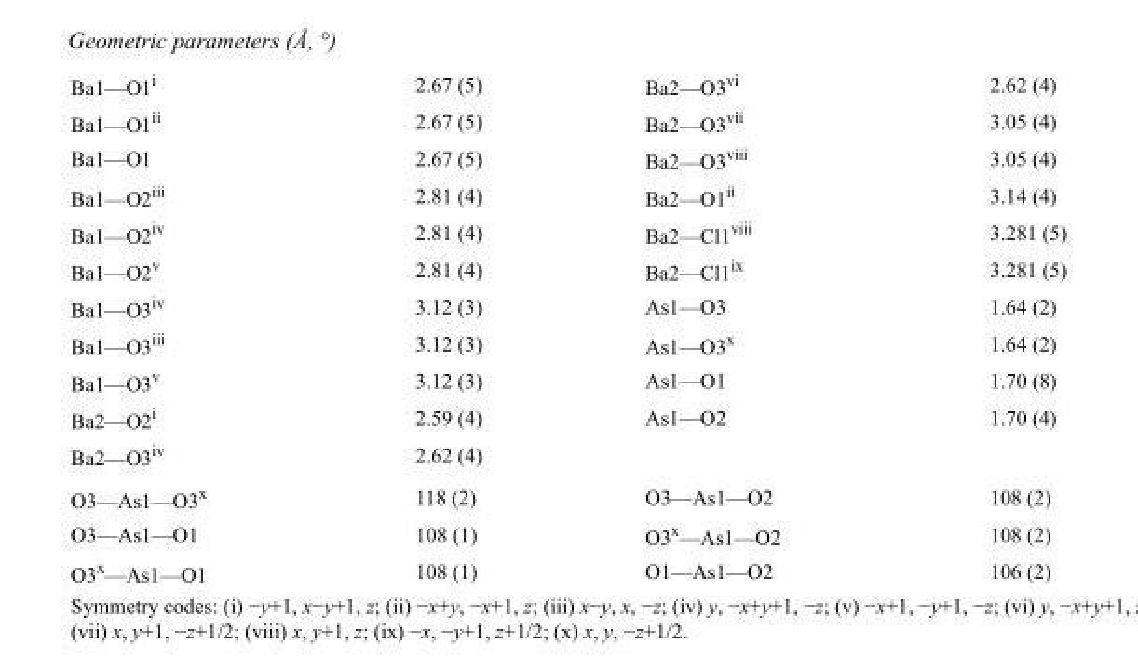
<table><tbody><tr><td>Ba1—O1<sup>i</sup></td><td>2.67 (5)</td><td>Ba2—O3<sup>vi</sup></td><td>2.62 (4)</td></tr><tr><td>Ba1—O1<sup>ii</sup></td><td>2.67 (5)</td><td>Ba2—O3<sup>vii</sup></td><td>3.05 (4)</td></tr><tr><td>Ba1—O1</td><td>2.67 (5)</td><td>Ba2—O3<sup>viii</sup></td><td>3.05 (4)</td></tr><tr><td>Ba1—O2<sup>iii</sup></td><td>2.81 (4)</td><td>Ba2—O1<sup>ii</sup></td><td>3.14 (4)</td></tr><tr><td>Ba1—O2<sup>iv</sup></td><td>2.81 (4)</td><td>Ba2—Cl1<sup>viii</sup></td><td>3.281 (5)</td></tr><tr><td>Ba1—O2<sup>v</sup></td><td>2.81 (4)</td><td>Ba2—Cl1<sup>ix</sup></td><td>3.281 (5)</td></tr><tr><td>Ba1—O3<sup>iv</sup></td><td>3.12 (3)</td><td>As1—O3</td><td>1.64 (2)</td></tr><tr><td>Ba1—O3<sup>iii</sup></td><td>3.12 (3)</td><td>As1—O3<sup>x</sup></td><td>1.64 (2)</td></tr><tr><td>Ba1—O3<sup>v</sup></td><td>3.12 (3)</td><td>As1—O1</td><td>1.70 (8)</td></tr><tr><td>Ba2—O2<sup>i</sup></td><td>2.59 (4)</td><td>As1—O2</td><td>1.70 (4)</td></tr><tr><td>Ba2—O3<sup>iv</sup></td><td>2.62 (4)</td><td></td><td></td></tr><tr><td>O3—As1—O3<sup>x</sup></td><td>118 (2)</td><td>O3—As1—O2</td><td>108 (2)</td></tr><tr><td>O3—As1—O1</td><td>108 (1)</td><td>O3<sup>x</sup>—As1—O2</td><td>108 (2)</td></tr><tr><td>O3<sup>x</sup>—As1—O1</td><td>108 (1)</td><td>O1—As1—O2</td><td>106 (2)</td></tr></tbody></table>